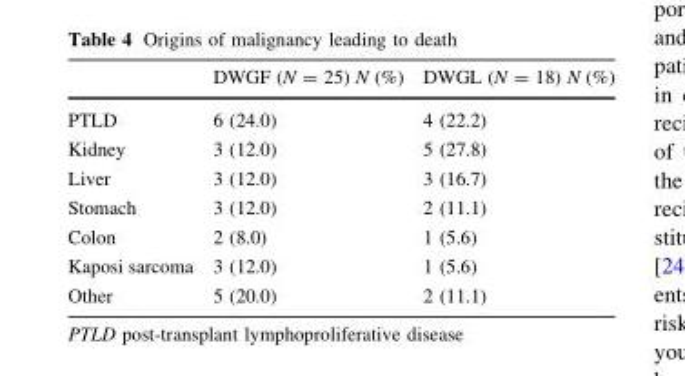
<table><thead><tr><td></td><td>DWGF (N = 25) N (%)</td><td>DWGL (N = 18) N (%)</td></tr></thead><tbody><tr><td>PTLD</td><td>6 (24.0)</td><td>4 (22.2)</td></tr><tr><td>Kidney</td><td>3 (12.0)</td><td>5 (27.8)</td></tr><tr><td>Liver</td><td>3 (12.0)</td><td>3 (16.7)</td></tr><tr><td>Stomach</td><td>3 (12.0)</td><td>2 (11.1)</td></tr><tr><td>Colon</td><td>2 (8.0)</td><td>1 (5.6)</td></tr><tr><td>Kaposi sarcoma</td><td>3 (12.0)</td><td>1 (5.6)</td></tr><tr><td>Other</td><td>5 (20.0)</td><td>2 (11.1)</td></tr></tbody></table>